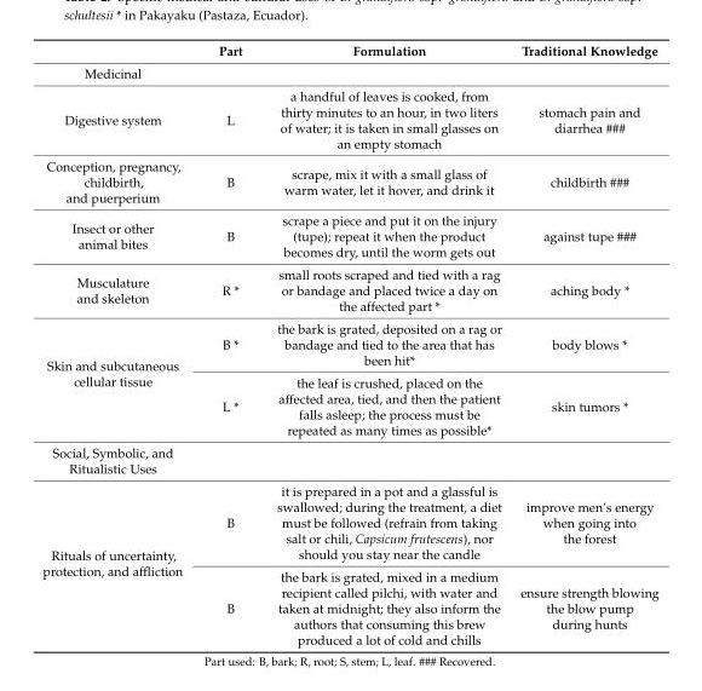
<table><thead><tr><td></td><td>Part</td><td>Formulation</td><td>Traditional Knowledge</td></tr></thead><tbody><tr><td colspan="4">Medicinal</td></tr><tr><td>Digestive system</td><td>L</td><td>a handful of leaves is cooked, from thirty minutes to an hour, in two liters of water; it is taken in small glasses on an empty stomach</td><td>stomach pain and diarrhea ###</td></tr><tr><td>Conception, pregnancy, childbirth, and puerperium</td><td>B</td><td>scrape, mix it with a small glass of warm water, let it hover, and drink it</td><td>childbirth ###</td></tr><tr><td>Insect or other animal bites</td><td>B</td><td>scrape a piece and put it on the injury (tupe); repeat it when the product becomes dry, until the worm gets out</td><td>against tupe ###</td></tr><tr><td>Musculature and skeleton</td><td>R *</td><td>small roots scraped and tied with a rag or bandage and placed twice a day on the affected part *</td><td>aching body *</td></tr><tr><td rowspan="2">Skin and subcutaneous cellular tissue</td><td>B *</td><td>the bark is grated, deposited on a rag or bandage and tied to the area that has been hit*</td><td>body blows *</td></tr><tr><td>L *</td><td>the leaf is crushed, placed on the affected area, tied, and then the patient falls asleep; the process must be repeated as many times as possible*</td><td>skin tumors *</td></tr><tr><td colspan="4">Social, Symbolic, and Ritualistic Uses</td></tr><tr><td rowspan="2">Rituals of uncertainty, protection, and affliction</td><td>B</td><td>it is prepared in a pot and a glassful is swallowed; during the treatment, a diet must be followed (refrain from taking salt or chili, Capsicum frutescens), nor should you stay near the candle</td><td>improve men’s energy when going into the forest</td></tr><tr><td>B</td><td>the bark is grated, mixed in a medium recipient called pilchi, with water and taken at midnight; they also inform the authors that consuming this brew produced a lot of cold and chills</td><td>ensure strength blowing the blow pump during hunts</td></tr></tbody></table>